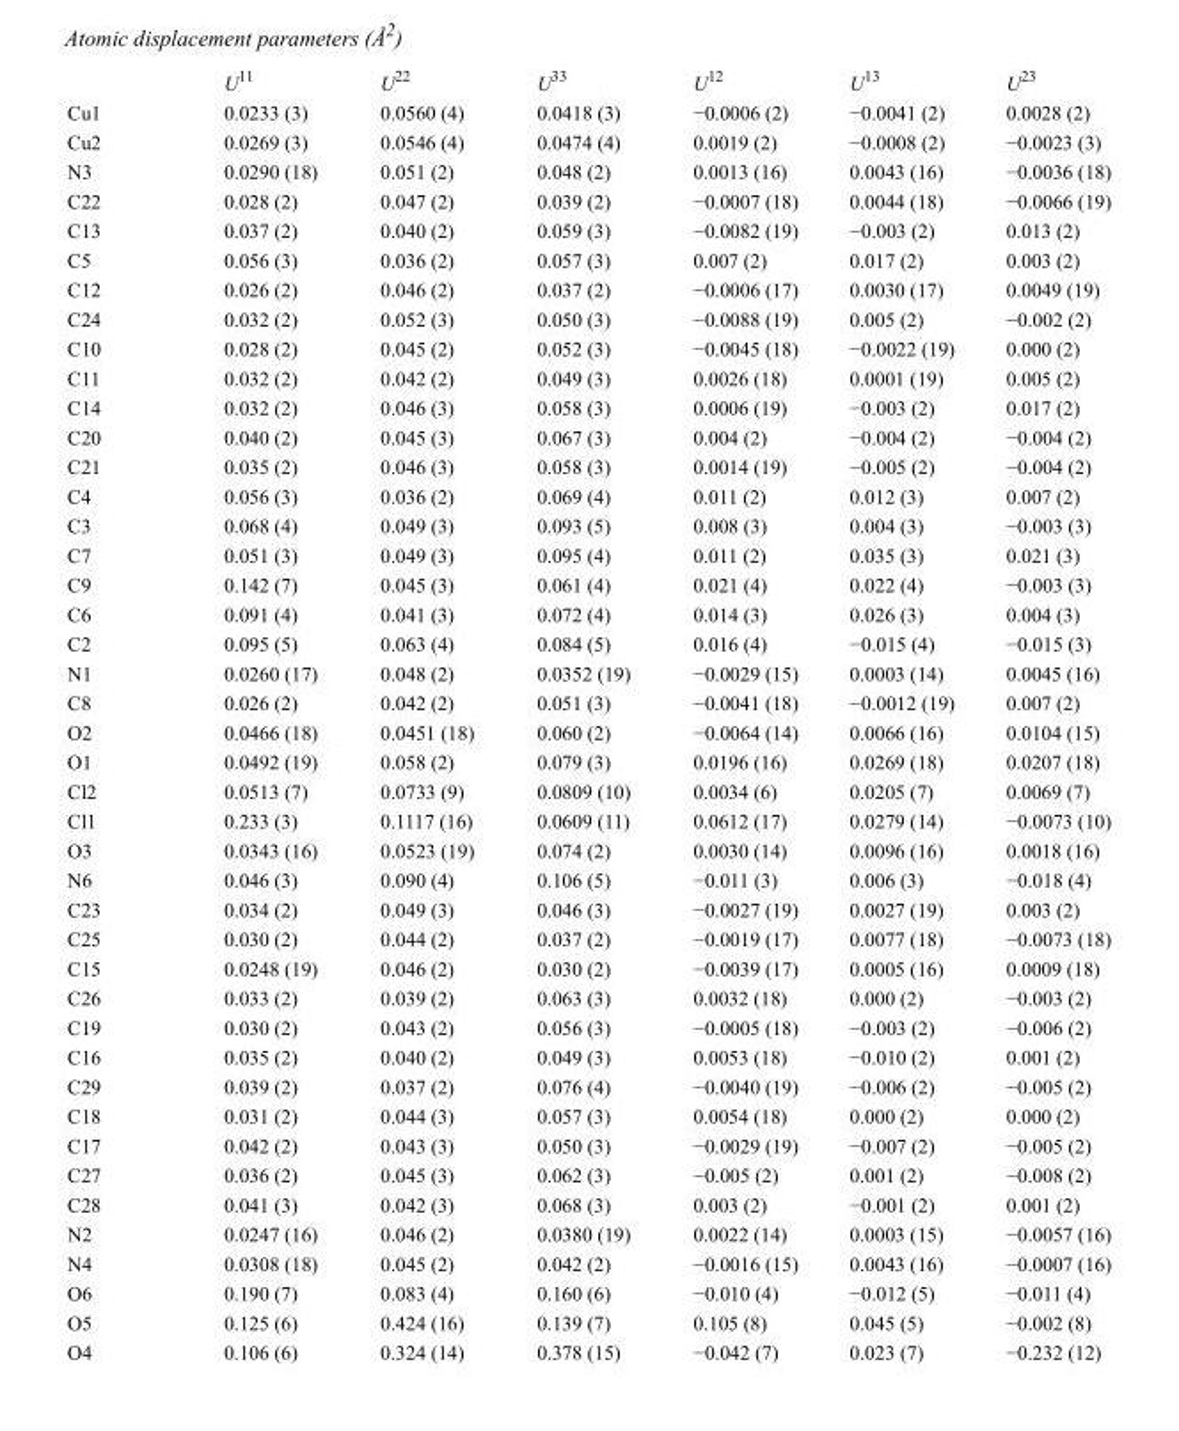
<table><thead><tr><td></td><td>U<sup>11</sup></td><td>U<sup>22</sup></td><td>U<sup>33</sup></td><td>U<sup>12</sup></td><td>U<sup>13</sup></td><td>U<sup>23</sup></td></tr></thead><tbody><tr><td>Cu1</td><td>0.0233 (3)</td><td>0.0560 (4)</td><td>0.0418 (3)</td><td>−0.0006 (2)</td><td>−0.0041 (2)</td><td>0.0028 (2)</td></tr><tr><td>Cu2</td><td>0.0269 (3)</td><td>0.0546 (4)</td><td>0.0474 (4)</td><td>0.0019 (2)</td><td>−0.0008 (2)</td><td>−0.0023 (3)</td></tr><tr><td>N3</td><td>0.0290 (18)</td><td>0.051 (2)</td><td>0.048 (2)</td><td>0.0013 (16)</td><td>0.0043 (16)</td><td>−0.0036 (18)</td></tr><tr><td>C22</td><td>0.028 (2)</td><td>0.047 (2)</td><td>0.039 (2)</td><td>−0.0007 (18)</td><td>0.0044 (18)</td><td>−0.0066 (19)</td></tr><tr><td>C13</td><td>0.037 (2)</td><td>0.040 (2)</td><td>0.059 (3)</td><td>−0.0082 (19)</td><td>−0.003 (2)</td><td>0.013 (2)</td></tr><tr><td>C5</td><td>0.056 (3)</td><td>0.036 (2)</td><td>0.057 (3)</td><td>0.007 (2)</td><td>0.017 (2)</td><td>0.003 (2)</td></tr><tr><td>C12</td><td>0.026 (2)</td><td>0.046 (2)</td><td>0.037 (2)</td><td>−0.0006 (17)</td><td>0.0030 (17)</td><td>0.0049 (19)</td></tr><tr><td>C24</td><td>0.032 (2)</td><td>0.052 (3)</td><td>0.050 (3)</td><td>−0.0088 (19)</td><td>0.005 (2)</td><td>−0.002 (2)</td></tr><tr><td>C10</td><td>0.028 (2)</td><td>0.045 (2)</td><td>0.052 (3)</td><td>−0.0045 (18)</td><td>−0.0022 (19)</td><td>0.000 (2)</td></tr><tr><td>C11</td><td>0.032 (2)</td><td>0.042 (2)</td><td>0.049 (3)</td><td>0.0026 (18)</td><td>0.0001 (19)</td><td>0.005 (2)</td></tr><tr><td>C14</td><td>0.032 (2)</td><td>0.046 (3)</td><td>0.058 (3)</td><td>0.0006 (19)</td><td>−0.003 (2)</td><td>0.017 (2)</td></tr><tr><td>C20</td><td>0.040 (2)</td><td>0.045 (3)</td><td>0.067 (3)</td><td>0.004 (2)</td><td>−0.004 (2)</td><td>−0.004 (2)</td></tr><tr><td>C21</td><td>0.035 (2)</td><td>0.046 (3)</td><td>0.058 (3)</td><td>0.0014 (19)</td><td>−0.005 (2)</td><td>−0.004 (2)</td></tr><tr><td>C4</td><td>0.056 (3)</td><td>0.036 (2)</td><td>0.069 (4)</td><td>0.011 (2)</td><td>0.012 (3)</td><td>0.007 (2)</td></tr><tr><td>C3</td><td>0.068 (4)</td><td>0.049 (3)</td><td>0.093 (5)</td><td>0.008 (3)</td><td>0.004 (3)</td><td>−0.003 (3)</td></tr><tr><td>C7</td><td>0.051 (3)</td><td>0.049 (3)</td><td>0.095 (4)</td><td>0.011 (2)</td><td>0.035 (3)</td><td>0.021 (3)</td></tr><tr><td>C9</td><td>0.142 (7)</td><td>0.045 (3)</td><td>0.061 (4)</td><td>0.021 (4)</td><td>0.022 (4)</td><td>−0.003 (3)</td></tr><tr><td>C6</td><td>0.091 (4)</td><td>0.041 (3)</td><td>0.072 (4)</td><td>0.014 (3)</td><td>0.026 (3)</td><td>0.004 (3)</td></tr><tr><td>C2</td><td>0.095 (5)</td><td>0.063 (4)</td><td>0.084 (5)</td><td>0.016 (4)</td><td>−0.015 (4)</td><td>−0.015 (3)</td></tr><tr><td>N1</td><td>0.0260 (17)</td><td>0.048 (2)</td><td>0.0352 (19)</td><td>−0.0029 (15)</td><td>0.0003 (14)</td><td>0.0045 (16)</td></tr><tr><td>C8</td><td>0.026 (2)</td><td>0.042 (2)</td><td>0.051 (3)</td><td>−0.0041 (18)</td><td>−0.0012 (19)</td><td>0.007 (2)</td></tr><tr><td>O2</td><td>0.0466 (18)</td><td>0.0451 (18)</td><td>0.060 (2)</td><td>−0.0064 (14)</td><td>0.0066 (16)</td><td>0.0104 (15)</td></tr><tr><td>O1</td><td>0.0492 (19)</td><td>0.058 (2)</td><td>0.079 (3)</td><td>0.0196 (16)</td><td>0.0269 (18)</td><td>0.0207 (18)</td></tr><tr><td>Cl2</td><td>0.0513 (7)</td><td>0.0733 (9)</td><td>0.0809 (10)</td><td>0.0034 (6)</td><td>0.0205 (7)</td><td>0.0069 (7)</td></tr><tr><td>Cl1</td><td>0.233 (3)</td><td>0.1117 (16)</td><td>0.0609 (11)</td><td>0.0612 (17)</td><td>0.0279 (14)</td><td>−0.0073 (10)</td></tr><tr><td>O3</td><td>0.0343 (16)</td><td>0.0523 (19)</td><td>0.074 (2)</td><td>0.0030 (14)</td><td>0.0096 (16)</td><td>0.0018 (16)</td></tr><tr><td>N6</td><td>0.046 (3)</td><td>0.090 (4)</td><td>0.106 (5)</td><td>−0.011 (3)</td><td>0.006 (3)</td><td>−0.018 (4)</td></tr><tr><td>C23</td><td>0.034 (2)</td><td>0.049 (3)</td><td>0.046 (3)</td><td>−0.0027 (19)</td><td>0.0027 (19)</td><td>0.003 (2)</td></tr><tr><td>C25</td><td>0.030 (2)</td><td>0.044 (2)</td><td>0.037 (2)</td><td>−0.0019 (17)</td><td>0.0077 (18)</td><td>−0.0073 (18)</td></tr><tr><td>C15</td><td>0.0248 (19)</td><td>0.046 (2)</td><td>0.030 (2)</td><td>−0.0039 (17)</td><td>0.0005 (16)</td><td>0.0009 (18)</td></tr><tr><td>C26</td><td>0.033 (2)</td><td>0.039 (2)</td><td>0.063 (3)</td><td>0.0032 (18)</td><td>0.000 (2)</td><td>−0.003 (2)</td></tr><tr><td>C19</td><td>0.030 (2)</td><td>0.043 (2)</td><td>0.056 (3)</td><td>−0.0005 (18)</td><td>−0.003 (2)</td><td>−0.006 (2)</td></tr><tr><td>C16</td><td>0.035 (2)</td><td>0.040 (2)</td><td>0.049 (3)</td><td>0.0053 (18)</td><td>−0.010 (2)</td><td>0.001 (2)</td></tr><tr><td>C29</td><td>0.039 (2)</td><td>0.037 (2)</td><td>0.076 (4)</td><td>−0.0040 (19)</td><td>−0.006 (2)</td><td>−0.005 (2)</td></tr><tr><td>C18</td><td>0.031 (2)</td><td>0.044 (3)</td><td>0.057 (3)</td><td>0.0054 (18)</td><td>0.000 (2)</td><td>0.000 (2)</td></tr><tr><td>C17</td><td>0.042 (2)</td><td>0.043 (3)</td><td>0.050 (3)</td><td>−0.0029 (19)</td><td>−0.007 (2)</td><td>−0.005 (2)</td></tr><tr><td>C27</td><td>0.036 (2)</td><td>0.045 (3)</td><td>0.062 (3)</td><td>−0.005 (2)</td><td>0.001 (2)</td><td>−0.008 (2)</td></tr><tr><td>C28</td><td>0.041 (3)</td><td>0.042 (3)</td><td>0.068 (3)</td><td>0.003 (2)</td><td>−0.001 (2)</td><td>0.001 (2)</td></tr><tr><td>N2</td><td>0.0247 (16)</td><td>0.046 (2)</td><td>0.0380 (19)</td><td>0.0022 (14)</td><td>0.0003 (15)</td><td>−0.0057 (16)</td></tr><tr><td>N4</td><td>0.0308 (18)</td><td>0.045 (2)</td><td>0.042 (2)</td><td>−0.0016 (15)</td><td>0.0043 (16)</td><td>−0.0007 (16)</td></tr><tr><td>O6</td><td>0.190 (7)</td><td>0.083 (4)</td><td>0.160 (6)</td><td>−0.010 (4)</td><td>−0.012 (5)</td><td>−0.011 (4)</td></tr><tr><td>O5</td><td>0.125 (6)</td><td>0.424 (16)</td><td>0.139 (7)</td><td>0.105 (8)</td><td>0.045 (5)</td><td>−0.002 (8)</td></tr><tr><td>O4</td><td>0.106 (6)</td><td>0.324 (14)</td><td>0.378 (15)</td><td>−0.042 (7)</td><td>0.023 (7)</td><td>−0.232 (12)</td></tr></tbody></table>